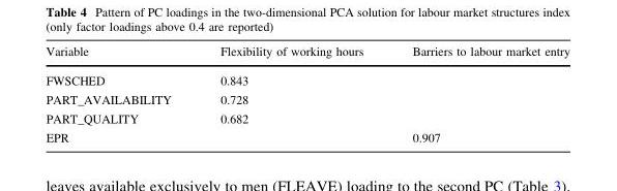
<table><thead><tr><td>Variable</td><td>Flexibility of working hours</td><td>Barriers to labour market entry</td></tr></thead><tbody><tr><td>FWSCHED</td><td>0.843</td><td></td></tr><tr><td>PART_AVAILABILITY</td><td>0.728</td><td></td></tr><tr><td>PART_QUALITY</td><td>0.682</td><td></td></tr><tr><td>EPR</td><td></td><td>0.907</td></tr></tbody></table>